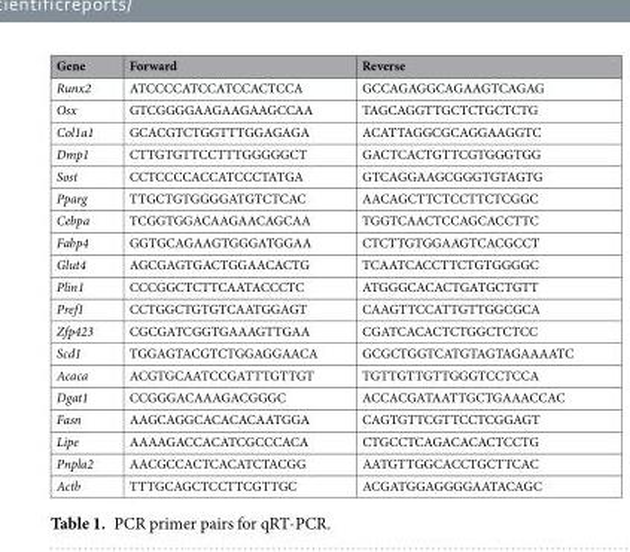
<table><thead><tr><td>Gene</td><td>Forward</td><td>Reverse</td></tr></thead><tbody><tr><td>Runx2</td><td>ATCCCCATCCATCCACTCCA</td><td>GCCAGAGGCAGAAGTCAGAG</td></tr><tr><td>Osx</td><td>GTCGGGGAAGAAGAAGCCAA</td><td>TAGCAGGTTGCTCTGCTCTG</td></tr><tr><td>Col1a1</td><td>GCACGTCTGGTTTGGAGAGA</td><td>ACATTAGGCGCAGGAAGGTC</td></tr><tr><td>Dmp1</td><td>CTTGTGTTCCTTTGGGGGCT</td><td>GACTCACTGTTCGTGGGTGG</td></tr><tr><td>Sost</td><td>CCTCCCCACCATCCCTATGA</td><td>GTCAGGAAGCGGGTGTAGTG</td></tr><tr><td>Pparg</td><td>TTGCTGTGGGGATGTCTCAC</td><td>AACAGCTTCTCCTTCTCGGC</td></tr><tr><td>Cebpa</td><td>TCGGTGGACAAGAACAGCAA</td><td>TGGTCAACTCCAGCACCTTC</td></tr><tr><td>Fabp4</td><td>GGTGCAGAAGTGGGATGGAA</td><td>CTCTTGTGGAAGTCACGCCT</td></tr><tr><td>Glut4</td><td>AGCGAGTGACTGGAACACTG</td><td>TCAATCACCTTCTGTGGGGC</td></tr><tr><td>Plin1</td><td>CCCGGCTCTTCAATACCCTC</td><td>ATGGGCACACTGATGCTGTT</td></tr><tr><td>Pref1</td><td>CCTGGCTGTGTCAATGGAGT</td><td>CAAGTTCCATTGTTGGCGCA</td></tr><tr><td>Zfp423</td><td>CGCGATCGGTGAAAGTTGAA</td><td>CGATCACACTCTGGCTCTCC</td></tr><tr><td>Scd1</td><td>TGGAGTACGTCTGGAGGAACA</td><td>GCGCTGGTCATGTAGTAGAAAATC</td></tr><tr><td>Acaca</td><td>ACGTGCAATCCGATTTGTTGT</td><td>TGTTGTTGTTGGGTCCTCCA</td></tr><tr><td>Dgat1</td><td>CCGGGACAAAGACGGGC</td><td>ACCACGATAATTGCTGAAACCAC</td></tr><tr><td>Fasn</td><td>AAGCAGGCACACACAATGGA</td><td>CAGTGTTCGTTCCTCGGAGT</td></tr><tr><td>Lipe</td><td>AAAAGACCACATCGCCCACA</td><td>CTGCCTCAGACACACTCCTG</td></tr><tr><td>Pnpla2</td><td>AACGCCACTCACATCTACGG</td><td>AATGTTGGCACCTGCTTCAC</td></tr><tr><td>Actb</td><td>TTTGCAGCTCCTTCGTTGC</td><td>ACGATGGAGGGGAATACAGC</td></tr></tbody></table>